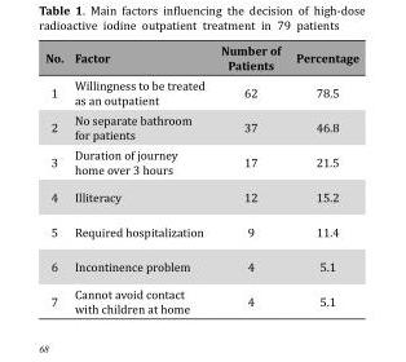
<table><thead><tr><td>No.</td><td>Factor</td><td>Number of Patients</td><td>Percentage</td></tr></thead><tbody><tr><td>1</td><td>Willingness to be treated as an outpatient</td><td>62</td><td>78.5</td></tr><tr><td>2</td><td>No separate bathroom for patients</td><td>37</td><td>46.8</td></tr><tr><td>3</td><td>Duration of journey home over 3 hours</td><td>17</td><td>21.5</td></tr><tr><td>4</td><td>Illiteracy</td><td>12</td><td>15.2</td></tr><tr><td>5</td><td>Required hospitalization</td><td>9</td><td>11.4</td></tr><tr><td>6</td><td>Incontinence problem</td><td>4</td><td>5.1</td></tr><tr><td>7</td><td>Cannot avoid contact with children at home</td><td>4</td><td>5.1</td></tr></tbody></table>